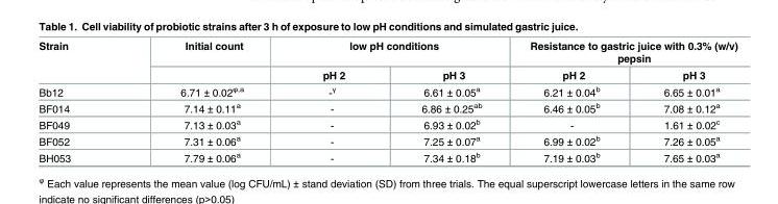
<table><thead><tr><td rowspan="2">Strain</td><td rowspan="2">Initial count</td><td colspan="2">low pH conditions</td><td colspan="2">Resistance to gastric juice with 0.3% (w/v) pepsin</td></tr><tr><td>pH 2</td><td>pH 3</td><td>pH 2</td><td>pH 3</td></tr></thead><tbody><tr><td>Bb12</td><td>6.71 ± 0.02<sup>φ,a</sup></td><td>-<sup>γ</sup></td><td>6.61 ± 0.05<sup>a</sup></td><td>6.21 ± 0.04<sup>b</sup></td><td>6.65 ± 0.01<sup>a</sup></td></tr><tr><td>BF014</td><td>7.14 ± 0.11<sup>a</sup></td><td>-</td><td>6.86 ± 0.25<sup>ab</sup></td><td>6.46 ± 0.05<sup>b</sup></td><td>7.08 ± 0.12<sup>a</sup></td></tr><tr><td>BF049</td><td>7.13 ± 0.03<sup>a</sup></td><td>-</td><td>6.93 ± 0.02<sup>b</sup></td><td>-</td><td>1.61 ± 0.02<sup>c</sup></td></tr><tr><td>BF052</td><td>7.31 ± 0.06<sup>a</sup></td><td>-</td><td>7.25 ± 0.07<sup>a</sup></td><td>6.99 ± 0.02<sup>b</sup></td><td>7.26 ± 0.05<sup>a</sup></td></tr><tr><td>BH053</td><td>7.79 ± 0.06<sup>a</sup></td><td>-</td><td>7.34 ± 0.18<sup>b</sup></td><td>7.19 ± 0.03<sup>b</sup></td><td>7.65 ± 0.03<sup>a</sup></td></tr></tbody></table>